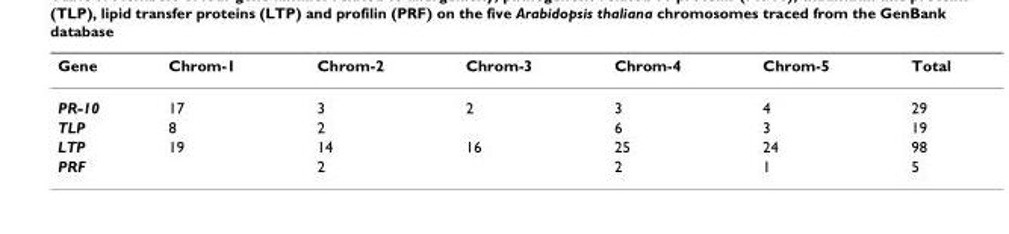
<table><thead><tr><td>Gene</td><td>Chrom-1</td><td>Chrom-2</td><td>Chrom-3</td><td>Chrom-4</td><td>Chrom-5</td><td>Total</td></tr></thead><tbody><tr><td>PR-10</td><td>17</td><td>3</td><td>2</td><td>3</td><td>4</td><td>29</td></tr><tr><td>TLP</td><td>8</td><td>2</td><td></td><td>6</td><td>3</td><td>19</td></tr><tr><td>LTP</td><td>19</td><td>14</td><td>16</td><td>25</td><td>24</td><td>98</td></tr><tr><td>PRF</td><td></td><td>2</td><td></td><td>2</td><td>1</td><td>5</td></tr></tbody></table>